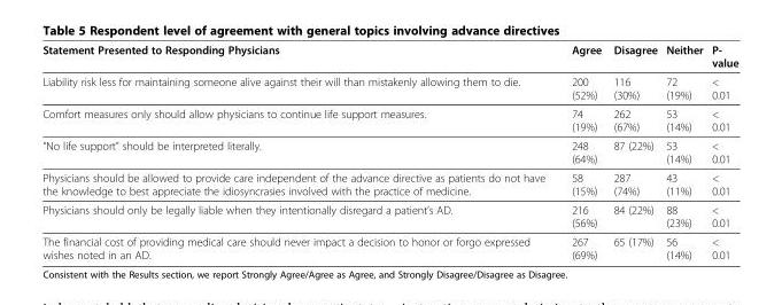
<table><thead><tr><td>Statement Presented to Responding Physicians</td><td>Agree</td><td>Disagree</td><td>Neither</td><td>P- value</td></tr></thead><tbody><tr><td>Liability risk less for maintaining someone alive against their will than mistakenly allowing them to die.</td><td>200 (52%)</td><td>116 (30%)</td><td>72 (19%)</td><td>&lt; 0.01</td></tr><tr><td>Comfort measures only should allow physicians to continue life support measures.</td><td>74 (19%)</td><td>262 (67%)</td><td>53 (14%)</td><td>&lt; 0.01</td></tr><tr><td>“No life support” should be interpreted literally.</td><td>248 (64%)</td><td>87 (22%)</td><td>53 (14%)</td><td>&lt; 0.01</td></tr><tr><td>Physicians should be allowed to provide care independent of the advance directive as patients do not have the knowledge to best appreciate the idiosyncrasies involved with the practice of medicine.</td><td>58 (15%)</td><td>287 (74%)</td><td>43 (11%)</td><td>&lt; 0.01</td></tr><tr><td>Physicians should only be legally liable when they intentionally disregard a patient’s AD.</td><td>216 (56%)</td><td>84 (22%)</td><td>88 (23%)</td><td>&lt; 0.01</td></tr><tr><td>The financial cost of providing medical care should never impact a decision to honor or forgo expressed wishes noted in an AD.</td><td>267 (69%)</td><td>65 (17%)</td><td>56 (14%)</td><td>&lt; 0.01</td></tr></tbody></table>